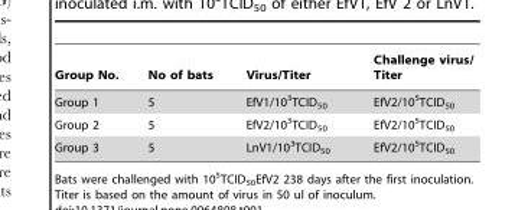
<table><thead><tr><td>Group No.</td><td>No of bats</td><td>Virus/Titer</td><td>Challenge virus/ Titer</td></tr></thead><tbody><tr><td>Group 1</td><td>5</td><td>EfV1/10<sup>3</sup>TCID<sub>50</sub></td><td>EfV2/10<sup>5</sup>TCID<sub>50</sub></td></tr><tr><td>Group 2</td><td>5</td><td>EfV2/10<sup>3</sup>TCID<sub>50</sub></td><td>EfV2/10<sup>5</sup>TCID<sub>50</sub></td></tr><tr><td>Group 3</td><td>5</td><td>LnV1/10<sup>3</sup>TCID<sub>50</sub></td><td>EfV2/10<sup>5</sup>TCID<sub>50</sub></td></tr></tbody></table>